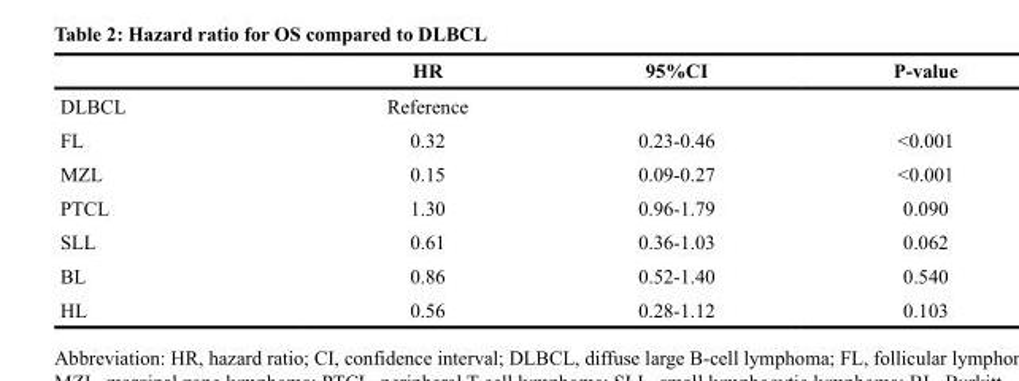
<table><thead><tr><td></td><td>HR</td><td>95%CI</td><td>P-value</td></tr></thead><tbody><tr><td>DLBCL</td><td>Reference</td><td></td><td></td></tr><tr><td>FL</td><td>0.32</td><td>0.23-0.46</td><td>&lt;0.001</td></tr><tr><td>MZL</td><td>0.15</td><td>0.09-0.27</td><td>&lt;0.001</td></tr><tr><td>PTCL</td><td>1.30</td><td>0.96-1.79</td><td>0.090</td></tr><tr><td>SLL</td><td>0.61</td><td>0.36-1.03</td><td>0.062</td></tr><tr><td>BL</td><td>0.86</td><td>0.52-1.40</td><td>0.540</td></tr><tr><td>HL</td><td>0.56</td><td>0.28-1.12</td><td>0.103</td></tr></tbody></table>